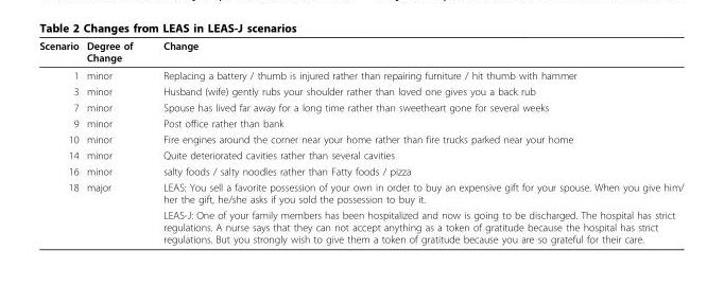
<table><thead><tr><td>Scenario</td><td>Degree of Change</td><td>Change</td></tr></thead><tbody><tr><td>1</td><td>minor</td><td>Replacing a battery / thumb is injured rather than repairing furniture / hit thumb with hammer</td></tr><tr><td>3</td><td>minor</td><td>Husband (wife) gently rubs your shoulder rather than loved one gives you a back rub</td></tr><tr><td>7</td><td>minor</td><td>Spouse has lived far away for a long time rather than sweetheart gone for several weeks</td></tr><tr><td>9</td><td>minor</td><td>Post office rather than bank</td></tr><tr><td>10</td><td>minor</td><td>Fire engines around the corner near your home rather than fire trucks parked near your home</td></tr><tr><td>14</td><td>minor</td><td>Quite deteriorated cavities rather than several cavities</td></tr><tr><td>16</td><td>minor</td><td>salty foods / salty noodles rather than Fatty foods / pizza</td></tr><tr><td rowspan="2">18</td><td>major</td><td>LEAS: You sell a favorite possession of your own in order to buy an expensive gift for your spouse. When you give him/ her the gift, he/she asks if you sold the possession to buy it.</td></tr><tr><td></td><td>LEAS-J: One of your family members has been hospitalized and now is going to be discharged. The hospital has strict regulations. A nurse says that they can not accept anything as a token of gratitude because the hospital has strict regulations. But you strongly wish to give them a token of gratitude because you are so grateful for their care.</td></tr></tbody></table>